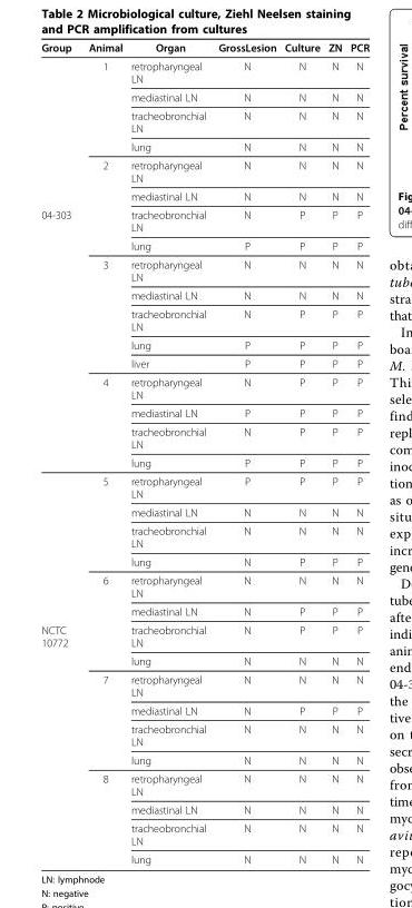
<table><thead><tr><td>Group</td><td>Animal</td><td>Organ</td><td>GrossLesion</td><td>Culture</td><td>ZN</td><td>PCR</td></tr></thead><tbody><tr><td></td><td>1</td><td>retropharyngeal LN</td><td>N</td><td>N</td><td>N</td><td>N</td></tr><tr><td></td><td></td><td>mediastinal LN</td><td>N</td><td>N</td><td>N</td><td>N</td></tr><tr><td></td><td></td><td>tracheobronchial LN</td><td>N</td><td>N</td><td>N</td><td>N</td></tr><tr><td></td><td></td><td>lung</td><td>N</td><td>N</td><td>N</td><td>N</td></tr><tr><td></td><td>2</td><td>retropharyngeal LN</td><td>N</td><td>N</td><td>N</td><td>N</td></tr><tr><td></td><td></td><td>mediastinal LN</td><td>N</td><td>N</td><td>N</td><td>N</td></tr><tr><td rowspan="17">04-303</td><td></td><td>tracheobronchial LN</td><td>N</td><td>P</td><td>P</td><td>P</td></tr><tr><td></td><td>lung</td><td>P</td><td>P</td><td>P</td><td>P</td></tr><tr><td>3</td><td>retropharyngeal LN</td><td>N</td><td>N</td><td>N</td><td>N</td></tr><tr><td></td><td>mediastinal LN</td><td>N</td><td>N</td><td>N</td><td>N</td></tr><tr><td></td><td>tracheobronchial LN</td><td>N</td><td>P</td><td>P</td><td>P</td></tr><tr><td></td><td>lung</td><td>P</td><td>P</td><td>P</td><td>P</td></tr><tr><td></td><td>liver</td><td>P</td><td>P</td><td>P</td><td>P</td></tr><tr><td>4</td><td>retropharyngeal LN</td><td>N</td><td>P</td><td>P</td><td>P</td></tr><tr><td></td><td>mediastinal LN</td><td>P</td><td>P</td><td>P</td><td>P</td></tr><tr><td></td><td>tracheobronchial LN</td><td>N</td><td>P</td><td>P</td><td>P</td></tr><tr><td></td><td>lung</td><td>P</td><td>P</td><td>P</td><td>P</td></tr><tr><td>5</td><td>retropharyngeal LN</td><td>P</td><td>P</td><td>P</td><td>P</td></tr><tr><td></td><td>mediastinal LN</td><td>N</td><td>N</td><td>N</td><td>N</td></tr><tr><td></td><td>tracheobronchial LN</td><td>N</td><td>N</td><td>N</td><td>N</td></tr><tr><td></td><td>lung</td><td>N</td><td>P</td><td>P</td><td>P</td></tr><tr><td>6</td><td>retropharyngeal LN</td><td>N</td><td>N</td><td>N</td><td>N</td></tr><tr><td></td><td>mediastinal LN</td><td>N</td><td>P</td><td>P</td><td>P</td></tr><tr><td rowspan="10">NCTC 10772</td><td></td><td>tracheobronchial LN</td><td>N</td><td>P</td><td>P</td><td>P</td></tr><tr><td></td><td>lung</td><td>N</td><td>N</td><td>N</td><td>N</td></tr><tr><td>7</td><td>retropharyngeal LN</td><td>N</td><td>N</td><td>N</td><td>N</td></tr><tr><td></td><td>mediastinal LN</td><td>N</td><td>P</td><td>P</td><td>P</td></tr><tr><td></td><td>tracheobronchial LN</td><td>N</td><td>N</td><td>N</td><td>N</td></tr><tr><td></td><td>lung</td><td>N</td><td>N</td><td>N</td><td>N</td></tr><tr><td>8</td><td>retropharyngeal LN</td><td>N</td><td>N</td><td>N</td><td>N</td></tr><tr><td></td><td>mediastinal LN</td><td>N</td><td>N</td><td>N</td><td>N</td></tr><tr><td></td><td>tracheobronchial LN</td><td>N</td><td>N</td><td>N</td><td>N</td></tr><tr><td></td><td>lung</td><td>N</td><td>N</td><td>N</td><td>N</td></tr></tbody></table>